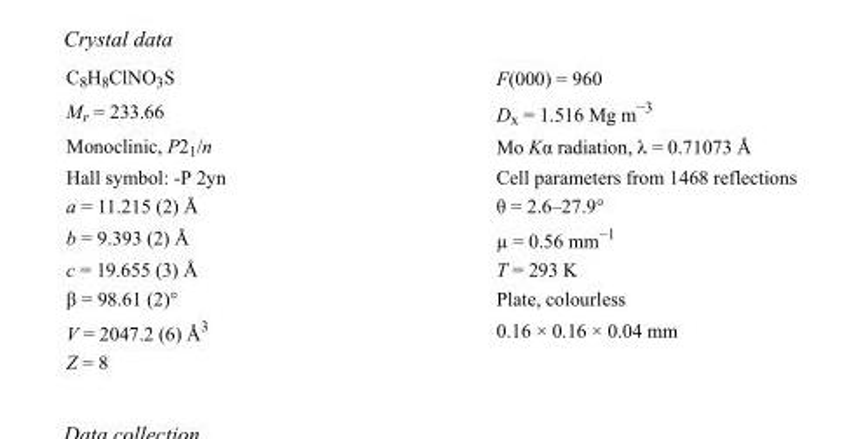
<table><tbody><tr><td>C<sub>8</sub>H<sub>8</sub>ClNO<sub>3</sub>S</td><td>F(000) = 960</td></tr><tr><td>M<sub>r</sub> = 233.66</td><td>D<sub>x</sub> = 1.516 Mg m<sup>−3</sup></td></tr><tr><td>Monoclinic, P2<sub>1</sub>/n</td><td>Mo Kα radiation, λ = 0.71073 Å</td></tr><tr><td>Hall symbol: -P 2yn</td><td>Cell parameters from 1468 reflections</td></tr><tr><td>a = 11.215 (2) Å</td><td>θ = 2.6–27.9°</td></tr><tr><td>b = 9.393 (2) Å</td><td>µ = 0.56 mm<sup>−1</sup></td></tr><tr><td>c = 19.655 (3) Å</td><td>T = 293 K</td></tr><tr><td>β = 98.61 (2)°</td><td>Plate, colourless</td></tr><tr><td>V = 2047.2 (6) Å<sup>3</sup></td><td>0.16 × 0.16 × 0.04 mm</td></tr><tr><td>Z = 8</td><td></td></tr></tbody></table>